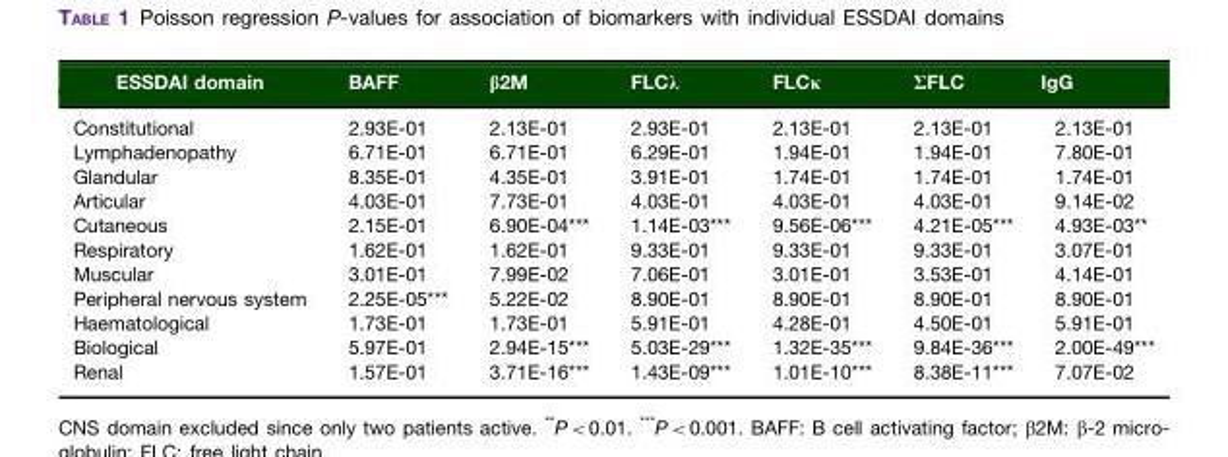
<table><thead><tr><td>ESSDAI domain</td><td>BAFF</td><td>β2M</td><td>FLCλ</td><td>FLCκ</td><td>ΣFLC</td><td>IgG</td></tr></thead><tbody><tr><td>Constitutional</td><td>2.93E-01</td><td>2.13E-01</td><td>2.93E-01</td><td>2.13E-01</td><td>2.13E-01</td><td>2.13E-01</td></tr><tr><td>Lymphadenopathy</td><td>6.71E-01</td><td>6.71E-01</td><td>6.29E-01</td><td>1.94E-01</td><td>1.94E-01</td><td>7.80E-01</td></tr><tr><td>Glandular</td><td>8.35E-01</td><td>4.35E-01</td><td>3.91E-01</td><td>1.74E-01</td><td>1.74E-01</td><td>1.74E-01</td></tr><tr><td>Articular</td><td>4.03E-01</td><td>7.73E-01</td><td>4.03E-01</td><td>4.03E-01</td><td>4.03E-01</td><td>9.14E-02</td></tr><tr><td>Cutaneous</td><td>2.15E-01</td><td>6.90E-04***</td><td>1.14E-03***</td><td>9.56E-06***</td><td>4.21E-05***</td><td>4.93E-03**</td></tr><tr><td>Respiratory</td><td>1.62E-01</td><td>1.62E-01</td><td>9.33E-01</td><td>9.33E-01</td><td>9.33E-01</td><td>3.07E-01</td></tr><tr><td>Muscular</td><td>3.01E-01</td><td>7.99E-02</td><td>7.06E-01</td><td>3.01E-01</td><td>3.53E-01</td><td>4.14E-01</td></tr><tr><td>Peripheral nervous system</td><td>2.25E-05***</td><td>5.22E-02</td><td>8.90E-01</td><td>8.90E-01</td><td>8.90E-01</td><td>8.90E-01</td></tr><tr><td>Haematological</td><td>1.73E-01</td><td>1.73E-01</td><td>5.91E-01</td><td>4.28E-01</td><td>4.50E-01</td><td>5.91E-01</td></tr><tr><td>Biological</td><td>5.97E-01</td><td>2.94E-15***</td><td>5.03E-29***</td><td>1.32E-35***</td><td>9.84E-36***</td><td>2.00E-49***</td></tr><tr><td>Renal</td><td>1.57E-01</td><td>3.71E-16***</td><td>1.43E-09***</td><td>1.01E-10***</td><td>8.38E-11***</td><td>7.07E-02</td></tr></tbody></table>